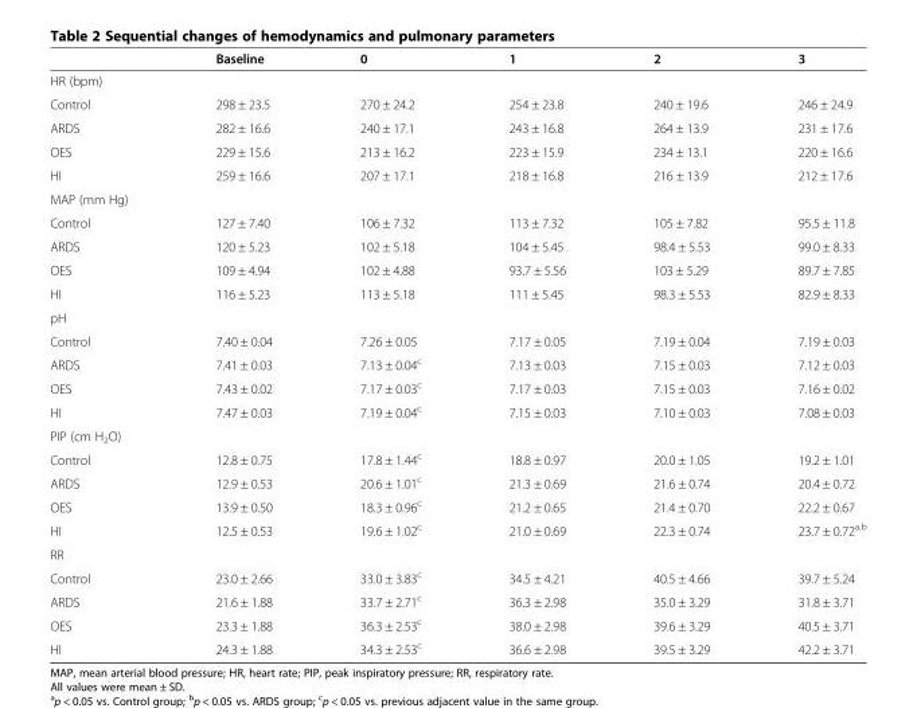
<table><thead><tr><td></td><td>Baseline</td><td>0</td><td>1</td><td>2</td><td>3</td></tr></thead><tbody><tr><td colspan="6">HR (bpm)</td></tr><tr><td>Control</td><td>298 ± 23.5</td><td>270 ± 24.2</td><td>254 ± 23.8</td><td>240 ± 19.6</td><td>246 ± 24.9</td></tr><tr><td>ARDS</td><td>282 ± 16.6</td><td>240 ± 17.1</td><td>243 ± 16.8</td><td>264 ± 13.9</td><td>231 ± 17.6</td></tr><tr><td>OES</td><td>229 ± 15.6</td><td>213 ± 16.2</td><td>223 ± 15.9</td><td>234 ± 13.1</td><td>220 ± 16.6</td></tr><tr><td>HI</td><td>259 ± 16.6</td><td>207 ± 17.1</td><td>218 ± 16.8</td><td>216 ± 13.9</td><td>212 ± 17.6</td></tr><tr><td colspan="6">MAP (mm Hg)</td></tr><tr><td>Control</td><td>127 ± 7.40</td><td>106 ± 7.32</td><td>113 ± 7.32</td><td>105 ± 7.82</td><td>95.5 ± 11.8</td></tr><tr><td>ARDS</td><td>120 ± 5.23</td><td>102 ± 5.18</td><td>104 ± 5.45</td><td>98.4 ± 5.53</td><td>99.0 ± 8.33</td></tr><tr><td>OES</td><td>109 ± 4.94</td><td>102 ± 4.88</td><td>93.7 ± 5.56</td><td>103 ± 5.29</td><td>89.7 ± 7.85</td></tr><tr><td>HI</td><td>116 ± 5.23</td><td>113 ± 5.18</td><td>111 ± 5.45</td><td>98.3 ± 5.53</td><td>82.9 ± 8.33</td></tr><tr><td colspan="6">pH</td></tr><tr><td>Control</td><td>7.40 ± 0.04</td><td>7.26 ± 0.05</td><td>7.17 ± 0.05</td><td>7.19 ± 0.04</td><td>7.19 ± 0.03</td></tr><tr><td>ARDS</td><td>7.41 ± 0.03</td><td>7.13 ± 0.04<sup>c</sup></td><td>7.13 ± 0.03</td><td>7.15 ± 0.03</td><td>7.12 ± 0.03</td></tr><tr><td>OES</td><td>7.43 ± 0.02</td><td>7.17 ± 0.03<sup>c</sup></td><td>7.17 ± 0.03</td><td>7.15 ± 0.03</td><td>7.16 ± 0.02</td></tr><tr><td>HI</td><td>7.47 ± 0.03</td><td>7.19 ± 0.04<sup>c</sup></td><td>7.15 ± 0.03</td><td>7.10 ± 0.03</td><td>7.08 ± 0.03</td></tr><tr><td colspan="6">PIP (cm H<sub>2</sub>O)</td></tr><tr><td>Control</td><td>12.8 ± 0.75</td><td>17.8 ± 1.44<sup>c</sup></td><td>18.8 ± 0.97</td><td>20.0 ± 1.05</td><td>19.2 ± 1.01</td></tr><tr><td>ARDS</td><td>12.9 ± 0.53</td><td>20.6 ± 1.01<sup>c</sup></td><td>21.3 ± 0.69</td><td>21.6 ± 0.74</td><td>20.4 ± 0.72</td></tr><tr><td>OES</td><td>13.9 ± 0.50</td><td>18.3 ± 0.96<sup>c</sup></td><td>21.2 ± 0.65</td><td>21.4 ± 0.70</td><td>22.2 ± 0.67</td></tr><tr><td>HI</td><td>12.5 ± 0.53</td><td>19.6 ± 1.02<sup>c</sup></td><td>21.0 ± 0.69</td><td>22.3 ± 0.74</td><td>23.7 ± 0.72<sup>a,b</sup></td></tr><tr><td colspan="6">RR</td></tr><tr><td>Control</td><td>23.0 ± 2.66</td><td>33.0 ± 3.83<sup>c</sup></td><td>34.5 ± 4.21</td><td>40.5 ± 4.66</td><td>39.7 ± 5.24</td></tr><tr><td>ARDS</td><td>21.6 ± 1.88</td><td>33.7 ± 2.71<sup>c</sup></td><td>36.3 ± 2.98</td><td>35.0 ± 3.29</td><td>31.8 ± 3.71</td></tr><tr><td>OES</td><td>23.3 ± 1.88</td><td>36.3 ± 2.53<sup>c</sup></td><td>38.0 ± 2.98</td><td>39.6 ± 3.29</td><td>40.5 ± 3.71</td></tr><tr><td>HI</td><td>24.3 ± 1.88</td><td>34.3 ± 2.53<sup>c</sup></td><td>36.6 ± 2.98</td><td>39.5 ± 3.29</td><td>42.2 ± 3.71</td></tr></tbody></table>